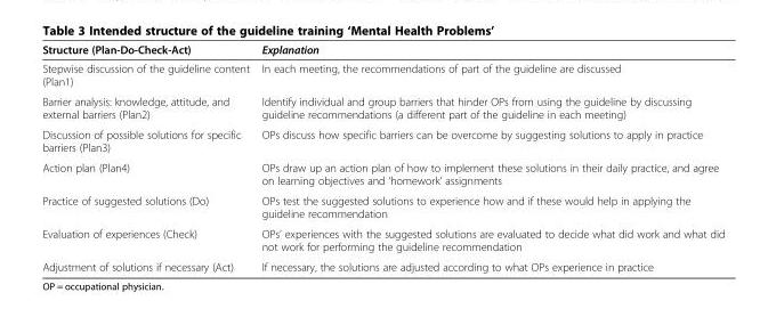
<table><thead><tr><td>Structure (Plan-Do-Check-Act)</td><td>Explanation</td></tr></thead><tbody><tr><td>Stepwise discussion of the guideline content (Plan1)</td><td>In each meeting, the recommendations of part of the guideline are discussed</td></tr><tr><td>Barrier analysis: knowledge, attitude, and external barriers (Plan2)</td><td>Identify individual and group barriers that hinder OPs from using the guideline by discussing guideline recommendations (a different part of the guideline in each meeting)</td></tr><tr><td>Discussion of possible solutions for specific barriers (Plan3)</td><td>OPs discuss how specific barriers can be overcome by suggesting solutions to apply in practice</td></tr><tr><td>Action plan (Plan4)</td><td>OPs draw up an action plan of how to implement these solutions in their daily practice, and agree on learning objectives and ‘homework’ assignments</td></tr><tr><td>Practice of suggested solutions (Do)</td><td>OPs test the suggested solutions to experience how and if these would help in applying the guideline recommendation</td></tr><tr><td>Evaluation of experiences (Check)</td><td>OPs’ experiences with the suggested solutions are evaluated to decide what did work and what did not work for performing the guideline recommendation</td></tr><tr><td>Adjustment of solutions if necessary (Act)</td><td>If necessary, the solutions are adjusted according to what OPs experience in practice</td></tr></tbody></table>